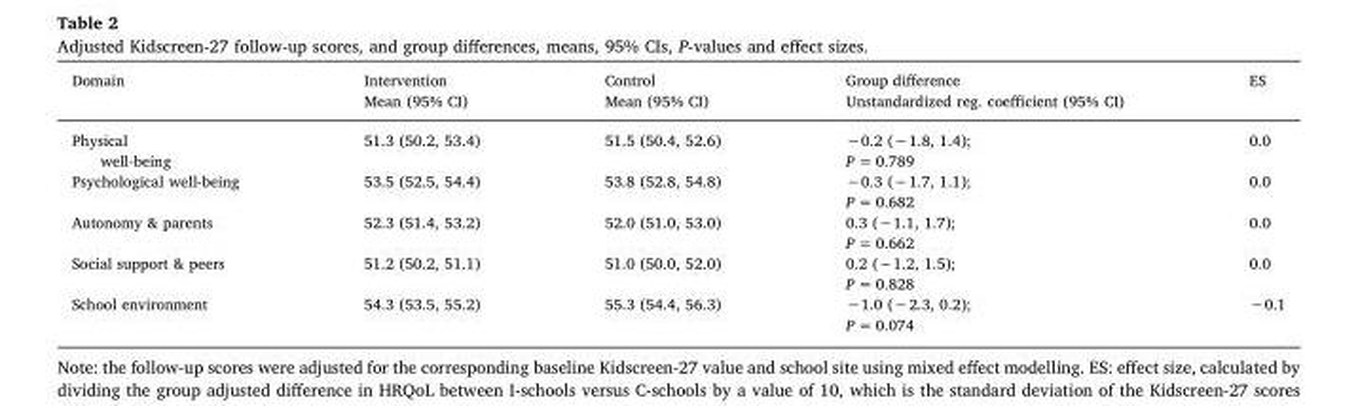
<table><thead><tr><td>Domain</td><td>Intervention Mean (95% CI)</td><td>Control Mean (95% CI)</td><td>Group difference Unstandardized reg. coefficient (95% CI)</td><td>ES</td></tr></thead><tbody><tr><td>Physical well-being</td><td>51.3 (50.2, 53.4)</td><td>51.5 (50.4, 52.6)</td><td>−0.2 (−1.8, 1.4); P = 0.789</td><td>0.0</td></tr><tr><td>Psychological well-being</td><td>53.5 (52.5, 54.4)</td><td>53.8 (52.8, 54.8)</td><td>−0.3 (−1.7, 1.1); P = 0.682</td><td>0.0</td></tr><tr><td>Autonomy &amp; parents</td><td>52.3 (51.4, 53.2)</td><td>52.0 (51.0, 53.0)</td><td>0.3 (−1.1, 1.7); P = 0.662</td><td>0.0</td></tr><tr><td>Social support &amp; peers</td><td>51.2 (50.2, 51.1)</td><td>51.0 (50.0, 52.0)</td><td>0.2 (−1.2, 1.5); P = 0.828</td><td>0.0</td></tr><tr><td>School environment</td><td>54.3 (53.5, 55.2)</td><td>55.3 (54.4, 56.3)</td><td>−1.0 (−2.3, 0.2); P = 0.074</td><td>−0.1</td></tr></tbody></table>